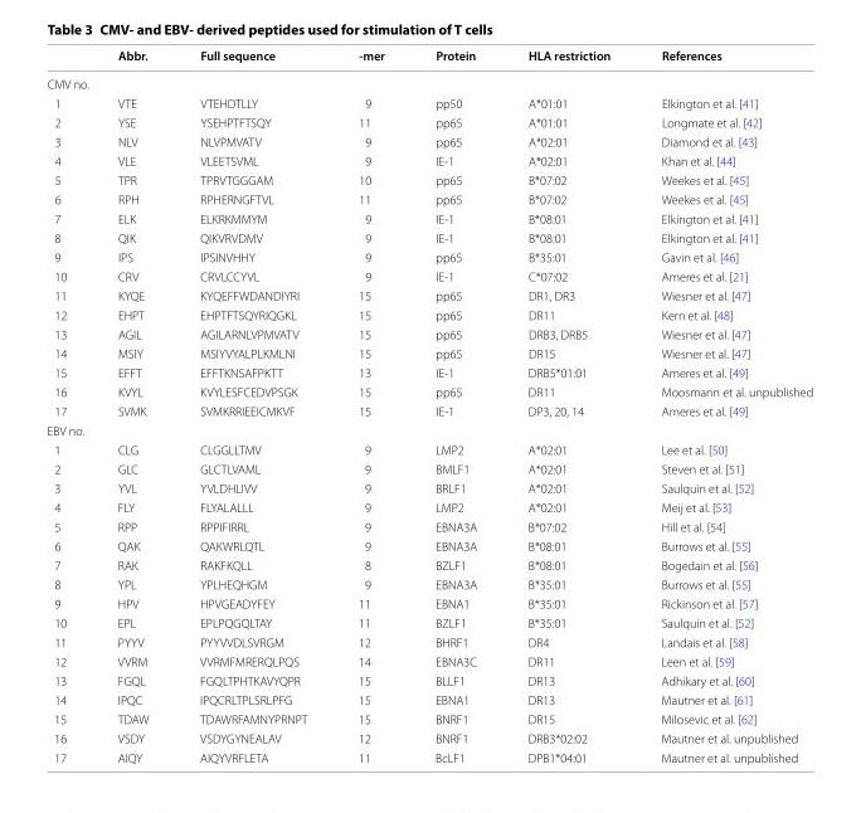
<table><thead><tr><td></td><td>Abbr.</td><td>Full sequence</td><td>‑mer</td><td>Protein</td><td>HLA restriction</td><td>References</td></tr></thead><tbody><tr><td colspan="7">CMV no.</td></tr><tr><td>1</td><td>VTE</td><td>VTEHDTLLY</td><td>9</td><td>pp50</td><td>A*01:01</td><td>Elkington et al. [41]</td></tr><tr><td>2</td><td>YSE</td><td>YSEHPTFTSQY</td><td>11</td><td>pp65</td><td>A*01:01</td><td>Longmate et al. [42]</td></tr><tr><td>3</td><td>NLV</td><td>NLVPMVATV</td><td>9</td><td>pp65</td><td>A*02:01</td><td>Diamond et al. [43]</td></tr><tr><td>4</td><td>VLE</td><td>VLEETSVML</td><td>9</td><td>IE-1</td><td>A*02:01</td><td>Khan et al. [44]</td></tr><tr><td>5</td><td>TPR</td><td>TPRVTGGGAM</td><td>10</td><td>pp65</td><td>B*07:02</td><td>Weekes et al. [45]</td></tr><tr><td>6</td><td>RPH</td><td>RPHERNGFTVL</td><td>11</td><td>pp65</td><td>B*07:02</td><td>Weekes et al. [45]</td></tr><tr><td>7</td><td>ELK</td><td>ELKRKMMYM</td><td>9</td><td>IE-1</td><td>B*08:01</td><td>Elkington et al. [41]</td></tr><tr><td>8</td><td>QIK</td><td>QIKVRVDMV</td><td>9</td><td>IE-1</td><td>B*08:01</td><td>Elkington et al. [41]</td></tr><tr><td>9</td><td>IPS</td><td>IPSINVHHY</td><td>9</td><td>pp65</td><td>B*35:01</td><td>Gavin et al. [46]</td></tr><tr><td>10</td><td>CRV</td><td>CRVLCCYVL</td><td>9</td><td>IE-1</td><td>C*07:02</td><td>Ameres et al. [21]</td></tr><tr><td>11</td><td>KYQE</td><td>KYQEFFWDANDIYRI</td><td>15</td><td>pp65</td><td>DR1, DR3</td><td>Wiesner et al. [47]</td></tr><tr><td>12</td><td>EHPT</td><td>EHPTFTSQYRIQGKL</td><td>15</td><td>pp65</td><td>DR11</td><td>Kern et al. [48]</td></tr><tr><td>13</td><td>AGIL</td><td>AGILARNLVPMVATV</td><td>15</td><td>pp65</td><td>DRB3, DRB5</td><td>Wiesner et al. [47]</td></tr><tr><td>14</td><td>MSIY</td><td>MSIYVYALPLKMLNI</td><td>15</td><td>pp65</td><td>DR15</td><td>Wiesner et al. [47]</td></tr><tr><td>15</td><td>EFFT</td><td>EFFTKNSAFPKTT</td><td>13</td><td>IE-1</td><td>DRB5*01:01</td><td>Ameres et al. [49]</td></tr><tr><td>16</td><td>KVYL</td><td>KVYLESFCEDVPSGK</td><td>15</td><td>pp65</td><td>DR11</td><td>Moosmann et al. unpublished</td></tr><tr><td>17</td><td>SVMK</td><td>SVMKRRIEEICMKVF</td><td>15</td><td>IE-1</td><td>DP3, 20, 14</td><td>Ameres et al. [49]</td></tr><tr><td colspan="7">EBV no.</td></tr><tr><td>1</td><td>CLG</td><td>CLGGLLTMV</td><td>9</td><td>LMP2</td><td>A*02:01</td><td>Lee et al. [50]</td></tr><tr><td>2</td><td>GLC</td><td>GLCTLVAML</td><td>9</td><td>BMLF1</td><td>A*02:01</td><td>Steven et al. [51]</td></tr><tr><td>3</td><td>YVL</td><td>YVLDHLIVV</td><td>9</td><td>BRLF1</td><td>A*02:01</td><td>Saulquin et al. [52]</td></tr><tr><td>4</td><td>FLY</td><td>FLYALALLL</td><td>9</td><td>LMP2</td><td>A*02:01</td><td>Meij et al. [53]</td></tr><tr><td>5</td><td>RPP</td><td>RPPIFIRRL</td><td>9</td><td>EBNA3A</td><td>B*07:02</td><td>Hill et al. [54]</td></tr><tr><td>6</td><td>QAK</td><td>QAKWRLQTL</td><td>9</td><td>EBNA3A</td><td>B*08:01</td><td>Burrows et al. [55]</td></tr><tr><td>7</td><td>RAK</td><td>RAKFKQLL</td><td>8</td><td>BZLF1</td><td>B*08:01</td><td>Bogedain et al. [56]</td></tr><tr><td>8</td><td>YPL</td><td>YPLHEQHGM</td><td>9</td><td>EBNA3A</td><td>B*35:01</td><td>Burrows et al. [55]</td></tr><tr><td>9</td><td>HPV</td><td>HPVGEADYFEY</td><td>11</td><td>EBNA1</td><td>B*35:01</td><td>Rickinson et al. [57]</td></tr><tr><td>10</td><td>EPL</td><td>EPLPQGQLTAY</td><td>11</td><td>BZLF1</td><td>B*35:01</td><td>Saulquin et al. [52]</td></tr><tr><td>11</td><td>PYYV</td><td>PYYVVDLSVRGM</td><td>12</td><td>BHRF1</td><td>DR4</td><td>Landais et al. [58]</td></tr><tr><td>12</td><td>VVRM</td><td>VVRMFMRERQLPQS</td><td>14</td><td>EBNA3C</td><td>DR11</td><td>Leen et al. [59]</td></tr><tr><td>13</td><td>FGQL</td><td>FGQLTPHTKAVYQPR</td><td>15</td><td>BLLF1</td><td>DR13</td><td>Adhikary et al. [60]</td></tr><tr><td>14</td><td>IPQC</td><td>IPQCRLTPLSRLPFG</td><td>15</td><td>EBNA1</td><td>DR13</td><td>Mautner et al. [61]</td></tr><tr><td>15</td><td>TDAW</td><td>TDAWRFAMNYPRNPT</td><td>15</td><td>BNRF1</td><td>DR15</td><td>Milosevic et al. [62]</td></tr><tr><td>16</td><td>VSDY</td><td>VSDYGYNEALAV</td><td>12</td><td>BNRF1</td><td>DRB3*02:02</td><td>Mautner et al. unpublished</td></tr><tr><td>17</td><td>AIQY</td><td>AIQYVRFLETA</td><td>11</td><td>BcLF1</td><td>DPB1*04:01</td><td>Mautner et al. unpublished</td></tr></tbody></table>